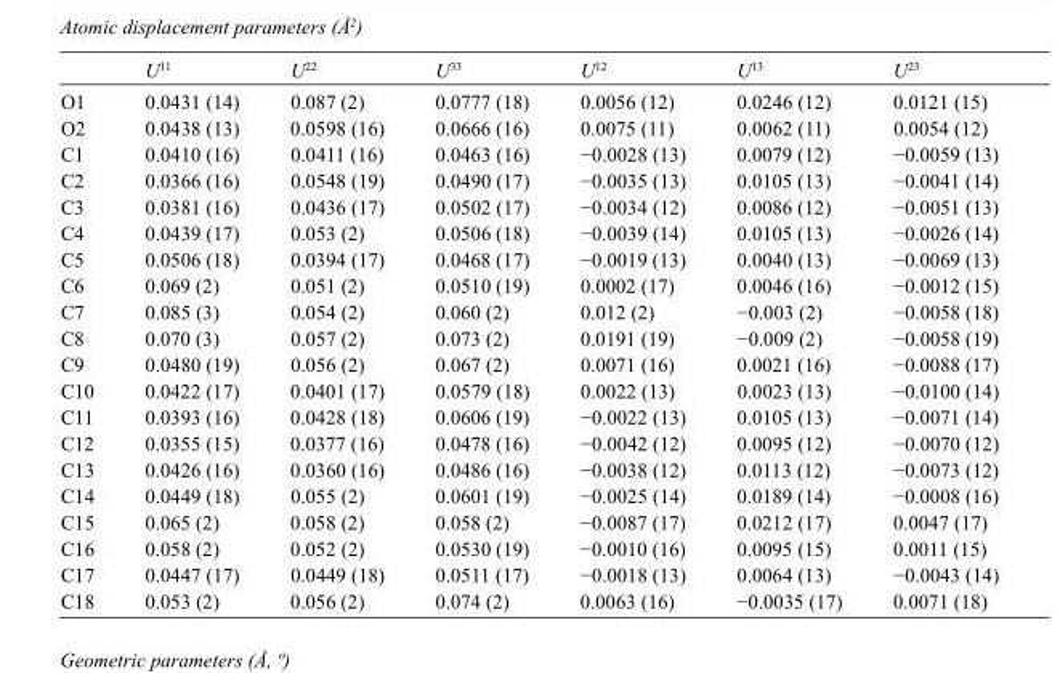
<table><thead><tr><td></td><td>U<sup>11</sup></td><td>U<sup>22</sup></td><td>U<sup>33</sup></td><td>U<sup>12</sup></td><td>U<sup>13</sup></td><td>U<sup>23</sup></td></tr></thead><tbody><tr><td>O1</td><td>0.0431 (14)</td><td>0.087 (2)</td><td>0.0777 (18)</td><td>0.0056 (12)</td><td>0.0246 (12)</td><td>0.0121 (15)</td></tr><tr><td>O2</td><td>0.0438 (13)</td><td>0.0598 (16)</td><td>0.0666 (16)</td><td>0.0075 (11)</td><td>0.0062 (11)</td><td>0.0054 (12)</td></tr><tr><td>C1</td><td>0.0410 (16)</td><td>0.0411 (16)</td><td>0.0463 (16)</td><td>−0.0028 (13)</td><td>0.0079 (12)</td><td>−0.0059 (13)</td></tr><tr><td>C2</td><td>0.0366 (16)</td><td>0.0548 (19)</td><td>0.0490 (17)</td><td>−0.0035 (13)</td><td>0.0105 (13)</td><td>−0.0041 (14)</td></tr><tr><td>C3</td><td>0.0381 (16)</td><td>0.0436 (17)</td><td>0.0502 (17)</td><td>−0.0034 (12)</td><td>0.0086 (12)</td><td>−0.0051 (13)</td></tr><tr><td>C4</td><td>0.0439 (17)</td><td>0.053 (2)</td><td>0.0506 (18)</td><td>−0.0039 (14)</td><td>0.0105 (13)</td><td>−0.0026 (14)</td></tr><tr><td>C5</td><td>0.0506 (18)</td><td>0.0394 (17)</td><td>0.0468 (17)</td><td>−0.0019 (13)</td><td>0.0040 (13)</td><td>−0.0069 (13)</td></tr><tr><td>C6</td><td>0.069 (2)</td><td>0.051 (2)</td><td>0.0510 (19)</td><td>0.0002 (17)</td><td>0.0046 (16)</td><td>−0.0012 (15)</td></tr><tr><td>C7</td><td>0.085 (3)</td><td>0.054 (2)</td><td>0.060 (2)</td><td>0.012 (2)</td><td>−0.003 (2)</td><td>−0.0058 (18)</td></tr><tr><td>C8</td><td>0.070 (3)</td><td>0.057 (2)</td><td>0.073 (2)</td><td>0.0191 (19)</td><td>−0.009 (2)</td><td>−0.0058 (19)</td></tr><tr><td>C9</td><td>0.0480 (19)</td><td>0.056 (2)</td><td>0.067 (2)</td><td>0.0071 (16)</td><td>0.0021 (16)</td><td>−0.0088 (17)</td></tr><tr><td>C10</td><td>0.0422 (17)</td><td>0.0401 (17)</td><td>0.0579 (18)</td><td>0.0022 (13)</td><td>0.0023 (13)</td><td>−0.0100 (14)</td></tr><tr><td>C11</td><td>0.0393 (16)</td><td>0.0428 (18)</td><td>0.0606 (19)</td><td>−0.0022 (13)</td><td>0.0105 (13)</td><td>−0.0071 (14)</td></tr><tr><td>C12</td><td>0.0355 (15)</td><td>0.0377 (16)</td><td>0.0478 (16)</td><td>−0.0042 (12)</td><td>0.0095 (12)</td><td>−0.0070 (12)</td></tr><tr><td>C13</td><td>0.0426 (16)</td><td>0.0360 (16)</td><td>0.0486 (16)</td><td>−0.0038 (12)</td><td>0.0113 (12)</td><td>−0.0073 (12)</td></tr><tr><td>C14</td><td>0.0449 (18)</td><td>0.055 (2)</td><td>0.0601 (19)</td><td>−0.0025 (14)</td><td>0.0189 (14)</td><td>−0.0008 (16)</td></tr><tr><td>C15</td><td>0.065 (2)</td><td>0.058 (2)</td><td>0.058 (2)</td><td>−0.0087 (17)</td><td>0.0212 (17)</td><td>0.0047 (17)</td></tr><tr><td>C16</td><td>0.058 (2)</td><td>0.052 (2)</td><td>0.0530 (19)</td><td>−0.0010 (16)</td><td>0.0095 (15)</td><td>0.0011 (15)</td></tr><tr><td>C17</td><td>0.0447 (17)</td><td>0.0449 (18)</td><td>0.0511 (17)</td><td>−0.0018 (13)</td><td>0.0064 (13)</td><td>−0.0043 (14)</td></tr><tr><td>C18</td><td>0.053 (2)</td><td>0.056 (2)</td><td>0.074 (2)</td><td>0.0063 (16)</td><td>−0.0035 (17)</td><td>0.0071 (18)</td></tr></tbody></table>